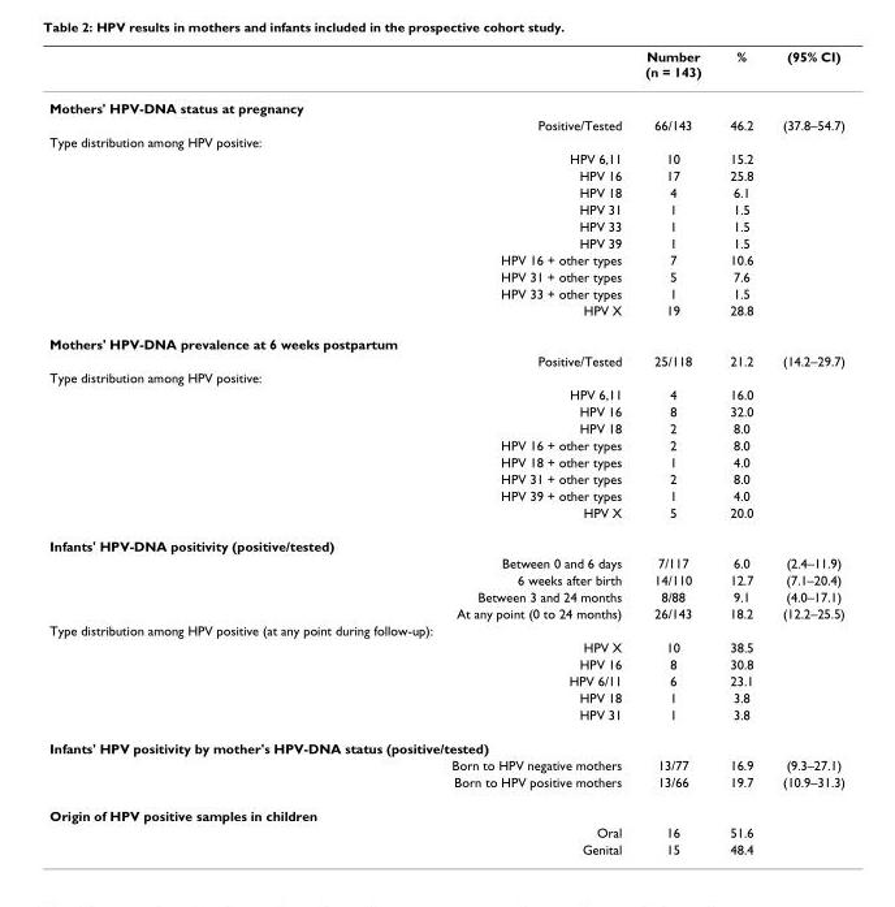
<table><thead><tr><td></td><td>Number (n = 143)</td><td>%</td><td>(95% CI)</td></tr></thead><tbody><tr><td colspan="4">Mothers&#x27; HPV-DNA status at pregnancy</td></tr><tr><td>Positive/Tested</td><td>66/143</td><td>46.2</td><td>(37.8–54.7)</td></tr><tr><td colspan="4">Type distribution among HPV positive:</td></tr><tr><td>HPV 6,11</td><td>10</td><td>15.2</td><td></td></tr><tr><td>HPV 16</td><td>17</td><td>25.8</td><td></td></tr><tr><td>HPV 18</td><td>4</td><td>6.1</td><td></td></tr><tr><td>HPV 31</td><td>1</td><td>1.5</td><td></td></tr><tr><td>HPV 33</td><td>1</td><td>1.5</td><td></td></tr><tr><td>HPV 39</td><td>1</td><td>1.5</td><td></td></tr><tr><td>HPV 16 + other types</td><td>7</td><td>10.6</td><td></td></tr><tr><td>HPV 31 + other types</td><td>5</td><td>7.6</td><td></td></tr><tr><td>HPV 33 + other types</td><td>1</td><td>1.5</td><td></td></tr><tr><td>HPV X</td><td>19</td><td>28.8</td><td></td></tr><tr><td colspan="4">Mothers&#x27; HPV-DNA prevalence at 6 weeks postpartum</td></tr><tr><td>Positive/Tested</td><td>25/118</td><td>21.2</td><td>(14.2–29.7)</td></tr><tr><td colspan="4">Type distribution among HPV positive:</td></tr><tr><td>HPV 6,11</td><td>4</td><td>16.0</td><td></td></tr><tr><td>HPV 16</td><td>8</td><td>32.0</td><td></td></tr><tr><td>HPV 18</td><td>2</td><td>8.0</td><td></td></tr><tr><td>HPV 16 + other types</td><td>2</td><td>8.0</td><td></td></tr><tr><td>HPV 18 + other types</td><td>1</td><td>4.0</td><td></td></tr><tr><td>HPV 31 + other types</td><td>2</td><td>8.0</td><td></td></tr><tr><td>HPV 39 + other types</td><td>1</td><td>4.0</td><td></td></tr><tr><td>HPV X</td><td>5</td><td>20.0</td><td></td></tr><tr><td colspan="4">Infants&#x27; HPV-DNA positivity (positive/tested)</td></tr><tr><td>Between 0 and 6 days</td><td>7/117</td><td>6.0</td><td>(2.4–11.9)</td></tr><tr><td>6 weeks after birth</td><td>14/110</td><td>12.7</td><td>(7.1–20.4)</td></tr><tr><td>Between 3 and 24 months</td><td>8/88</td><td>9.1</td><td>(4.0–17.1)</td></tr><tr><td>At any point (0 to 24 months)</td><td>26/143</td><td>18.2</td><td>(12.2–25.5)</td></tr><tr><td colspan="4">Type distribution among HPV positive (at any point during follow-up):</td></tr><tr><td>HPV X</td><td>10</td><td>38.5</td><td></td></tr><tr><td>HPV 16</td><td>8</td><td>30.8</td><td></td></tr><tr><td>HPV 6/11</td><td>6</td><td>23.1</td><td></td></tr><tr><td>HPV 18</td><td>1</td><td>3.8</td><td></td></tr><tr><td>HPV 31</td><td>1</td><td>3.8</td><td></td></tr><tr><td colspan="4">Infants&#x27; HPV positivity by mother&#x27;s HPV-DNA status (positive/tested)</td></tr><tr><td>Born to HPV negative mothers</td><td>13/77</td><td>16.9</td><td>(9.3–27.1)</td></tr><tr><td>Born to HPV positive mothers</td><td>13/66</td><td>19.7</td><td>(10.9–31.3)</td></tr><tr><td colspan="4">Origin of HPV positive samples in children</td></tr><tr><td>Oral</td><td>16</td><td>51.6</td><td></td></tr><tr><td>Genital</td><td>15</td><td>48.4</td><td></td></tr></tbody></table>